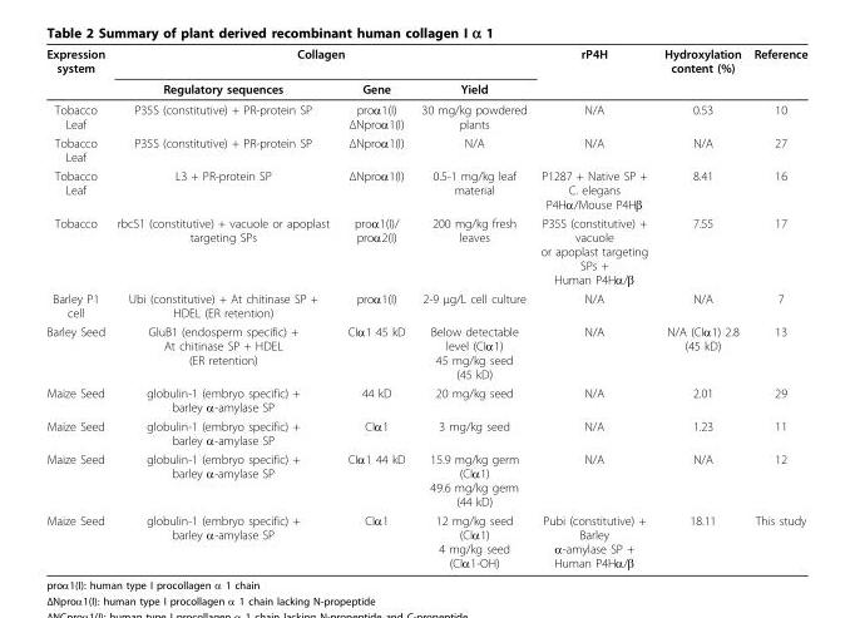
<table><thead><tr><td rowspan="2">Expression system</td><td colspan="3">Collagen</td><td rowspan="2">rP4H</td><td rowspan="2">Hydroxylation content (%)</td><td rowspan="2">Reference</td></tr><tr><td>Regulatory sequences</td><td>Gene</td><td>Yield</td></tr></thead><tbody><tr><td>Tobacco Leaf</td><td>P35S (constitutive) + PR-protein SP</td><td>proα1(I) ΔNproα1(I)</td><td>30 mg/kg powdered plants</td><td>N/A</td><td>0.53</td><td>10</td></tr><tr><td>Tobacco Leaf</td><td>P35S (constitutive) + PR-protein SP</td><td>ΔNproα1(I)</td><td>N/A</td><td>N/A</td><td>N/A</td><td>27</td></tr><tr><td>Tobacco Leaf</td><td>L3 + PR-protein SP</td><td>ΔNproα1(I)</td><td>0.5-1 mg/kg leaf material</td><td>P1287 + Native SP + C. elegans P4Hα/Mouse P4Hβ</td><td>8.41</td><td>16</td></tr><tr><td>Tobacco</td><td>rbcS1 (constitutive) + vacuole or apoplast targeting SPs</td><td>proα1(I)/ proα2(I)</td><td>200 mg/kg fresh leaves</td><td>P35S (constitutive) + vacuole or apoplast targeting SPs + Human P4Hα/β</td><td>7.55</td><td>17</td></tr><tr><td>Barley P1 cell</td><td>Ubi (constitutive) + At chitinase SP + HDEL (ER retention)</td><td>proα1(I)</td><td>2-9 μg/L cell culture</td><td>N/A</td><td>N/A</td><td>7</td></tr><tr><td>Barley Seed</td><td>GluB1 (endosperm specific) + At chitinase SP + HDEL (ER retention)</td><td>CIα1 45 kD</td><td>Below detectable level (CIα1) 45 mg/kg seed (45 kD)</td><td>N/A</td><td>N/A (CIα1) 2.8 (45 kD)</td><td>13</td></tr><tr><td>Maize Seed</td><td>globulin-1 (embryo specific) + barley α-amylase SP</td><td>44 kD</td><td>20 mg/kg seed</td><td>N/A</td><td>2.01</td><td>29</td></tr><tr><td>Maize Seed</td><td>globulin-1 (embryo specific) + barley α-amylase SP</td><td>CIα1</td><td>3 mg/kg seed</td><td>N/A</td><td>1.23</td><td>11</td></tr><tr><td>Maize Seed</td><td>globulin-1 (embryo specific) + barley α-amylase SP</td><td>CIα1 44 kD</td><td>15.9 mg/kg germ (CIα1) 49.6 mg/kg germ (44 kD)</td><td>N/A</td><td>N/A</td><td>12</td></tr><tr><td>Maize Seed</td><td>globulin-1 (embryo specific) + barley α-amylase SP</td><td>CIα1</td><td>12 mg/kg seed (CIα1) 4 mg/kg seed (CIα1-OH)</td><td>Pubi (constitutive) + Barley α-amylase SP + Human P4Hα/β</td><td>18.11</td><td>This study</td></tr></tbody></table>